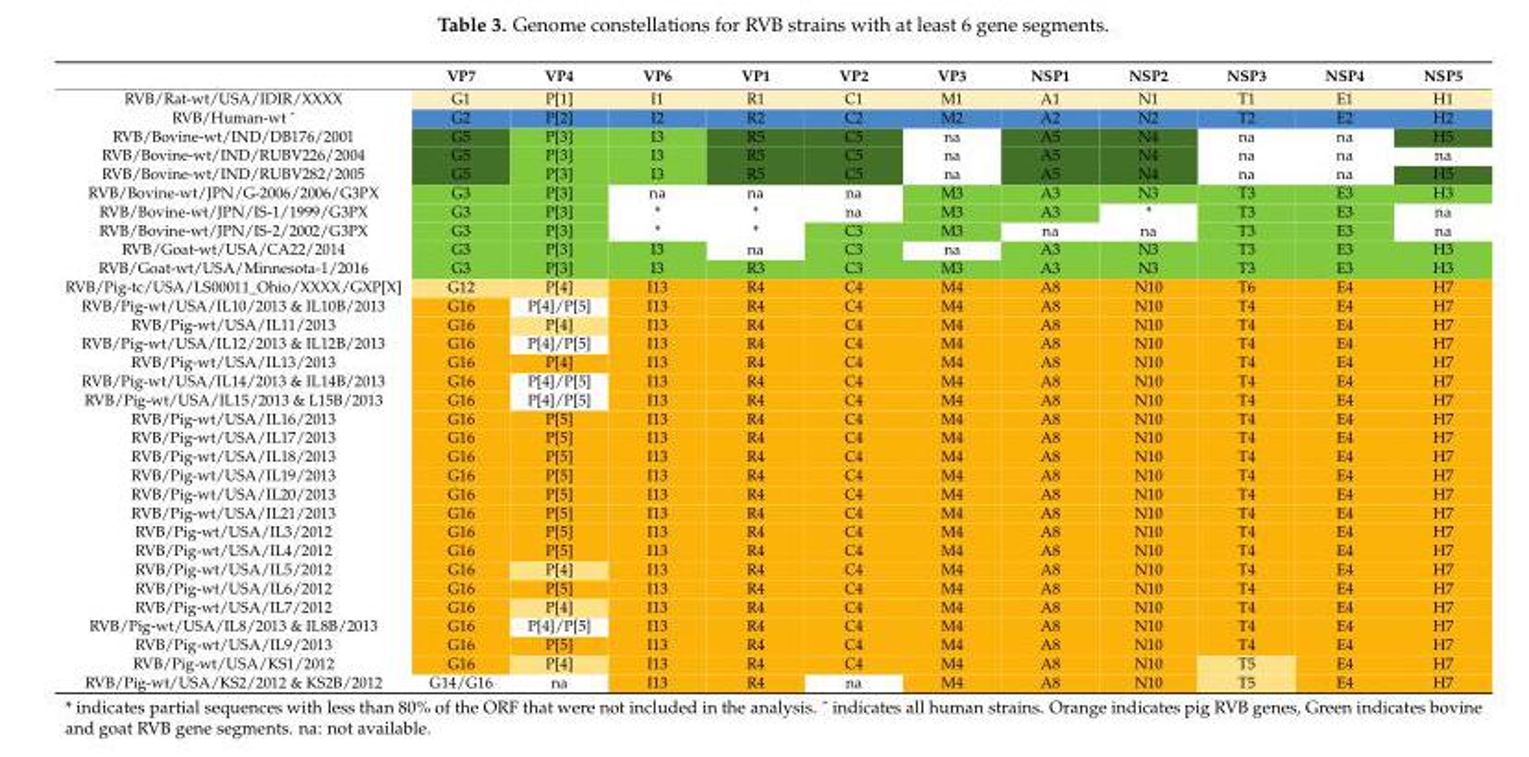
<table><thead><tr><td></td><td>VP7</td><td>VP4</td><td>VP6</td><td>VP1</td><td>VP2</td><td>VP3</td><td>NSP1</td><td>NSP2</td><td>NSP3</td><td>NSP4</td><td>NSP5</td></tr></thead><tbody><tr><td>RVB/Rat-wt/USA/IDIR/XXXX</td><td>G1</td><td>P[1]</td><td>I1</td><td>R1</td><td>C1</td><td>M1</td><td>A1</td><td>N1</td><td>T1</td><td>E1</td><td>H1</td></tr><tr><td>RVB/Human-wt ˆ</td><td>G2</td><td>P[2]</td><td>I2</td><td>R2</td><td>C2</td><td>M2</td><td>A2</td><td>N2</td><td>T2</td><td>E2</td><td>H2</td></tr><tr><td>RVB/Bovine-wt/IND/DB176/2001</td><td>G5</td><td>P[3]</td><td>I3</td><td>R5</td><td>C5</td><td>na</td><td>A5</td><td>N4</td><td>na</td><td>na</td><td>H5</td></tr><tr><td>RVB/Bovine-wt/IND/RUBV226/2004</td><td>G5</td><td>P[3]</td><td>I3</td><td>R5</td><td>C5</td><td>na</td><td>A5</td><td>N4</td><td>na</td><td>na</td><td>na</td></tr><tr><td>RVB/Bovine-wt/IND/RUBV282/2005</td><td>G5</td><td>P[3]</td><td>I3</td><td>R5</td><td>C5</td><td>na</td><td>A5</td><td>N4</td><td>na</td><td>na</td><td>H5</td></tr><tr><td>RVB/Bovine-wt/JPN/G-2006/2006/G3PX</td><td>G3</td><td>P[3]</td><td>na</td><td>na</td><td>na</td><td>M3</td><td>A3</td><td>N3</td><td>T3</td><td>E3</td><td>H3</td></tr><tr><td>RVB/Bovine-wt/JPN/IS-1/1999/G3PX</td><td>G3</td><td>P[3]</td><td>*</td><td>*</td><td>na</td><td>M3</td><td>A3</td><td>*</td><td>T3</td><td>E3</td><td>na</td></tr><tr><td>RVB/Bovine-wt/JPN/IS-2/2002/G3PX</td><td>G3</td><td>P[3]</td><td>*</td><td>*</td><td>C3</td><td>M3</td><td>na</td><td>na</td><td>T3</td><td>E3</td><td>na</td></tr><tr><td>RVB/Goat-wt/USA/CA22/2014</td><td>G3</td><td>P[3]</td><td>I3</td><td>na</td><td>C3</td><td>na</td><td>A3</td><td>N3</td><td>T3</td><td>E3</td><td>H3</td></tr><tr><td>RVB/Goat-wt/USA/Minnesota-1/2016</td><td>G3</td><td>P[3]</td><td>I3</td><td>R3</td><td>C3</td><td>M3</td><td>A3</td><td>N3</td><td>T3</td><td>E3</td><td>H3</td></tr><tr><td>RVB/Pig-tc/USA/LS00011_Ohio/XXXX/GXP[X]</td><td>G12</td><td>P[4]</td><td>I13</td><td>R4</td><td>C4</td><td>M4</td><td>A8</td><td>N10</td><td>T6</td><td>E4</td><td>H7</td></tr><tr><td>RVB/Pig-wt/USA/IL10/2013 &amp; IL10B/2013</td><td>G16</td><td>P[4]/P[5]</td><td>I13</td><td>R4</td><td>C4</td><td>M4</td><td>A8</td><td>N10</td><td>T4</td><td>E4</td><td>H7</td></tr><tr><td>RVB/Pig-wt/USA/IL11/2013</td><td>G16</td><td>P[4]</td><td>I13</td><td>R4</td><td>C4</td><td>M4</td><td>A8</td><td>N10</td><td>T4</td><td>E4</td><td>H7</td></tr><tr><td>RVB/Pig-wt/USA/IL12/2013 &amp; IL12B/2013</td><td>G16</td><td>P[4]/P[5]</td><td>I13</td><td>R4</td><td>C4</td><td>M4</td><td>A8</td><td>N10</td><td>T4</td><td>E4</td><td>H7</td></tr><tr><td>RVB/Pig-wt/USA/IL13/2013</td><td>G16</td><td>P[4]</td><td>I13</td><td>R4</td><td>C4</td><td>M4</td><td>A8</td><td>N10</td><td>T4</td><td>E4</td><td>H7</td></tr><tr><td>RVB/Pig-wt/USA/IL14/2013 &amp; IL14B/2013</td><td>G16</td><td>P[4]/P[5]</td><td>I13</td><td>R4</td><td>C4</td><td>M4</td><td>A8</td><td>N10</td><td>T4</td><td>E4</td><td>H7</td></tr><tr><td>RVB/Pig-wt/USA/IL15/2013 &amp; L15B/2013</td><td>G16</td><td>P[4]/P[5]</td><td>I13</td><td>R4</td><td>C4</td><td>M4</td><td>A8</td><td>N10</td><td>T4</td><td>E4</td><td>H7</td></tr><tr><td>RVB/Pig-wt/USA/IL16/2013</td><td>G16</td><td>P[5]</td><td>I13</td><td>R4</td><td>C4</td><td>M4</td><td>A8</td><td>N10</td><td>T4</td><td>E4</td><td>H7</td></tr><tr><td>RVB/Pig-wt/USA/IL17/2013</td><td>G16</td><td>P[5]</td><td>I13</td><td>R4</td><td>C4</td><td>M4</td><td>A8</td><td>N10</td><td>T4</td><td>E4</td><td>H7</td></tr><tr><td>RVB/Pig-wt/USA/IL18/2013</td><td>G16</td><td>P[5]</td><td>I13</td><td>R4</td><td>C4</td><td>M4</td><td>A8</td><td>N10</td><td>T4</td><td>E4</td><td>H7</td></tr><tr><td>RVB/Pig-wt/USA/IL19/2013</td><td>G16</td><td>P[5]</td><td>I13</td><td>R4</td><td>C4</td><td>M4</td><td>A8</td><td>N10</td><td>T4</td><td>E4</td><td>H7</td></tr><tr><td>RVB/Pig-wt/USA/IL20/2013</td><td>G16</td><td>P[5]</td><td>I13</td><td>R4</td><td>C4</td><td>M4</td><td>A8</td><td>N10</td><td>T4</td><td>E4</td><td>H7</td></tr><tr><td>RVB/Pig-wt/USA/IL21/2013</td><td>G16</td><td>P[5]</td><td>I13</td><td>R4</td><td>C4</td><td>M4</td><td>A8</td><td>N10</td><td>T4</td><td>E4</td><td>H7</td></tr><tr><td>RVB/Pig-wt/USA/IL3/2012</td><td>G16</td><td>P[5]</td><td>I13</td><td>R4</td><td>C4</td><td>M4</td><td>A8</td><td>N10</td><td>T4</td><td>E4</td><td>H7</td></tr><tr><td>RVB/Pig-wt/USA/IL4/2012</td><td>G16</td><td>P[5]</td><td>I13</td><td>R4</td><td>C4</td><td>M4</td><td>A8</td><td>N10</td><td>T4</td><td>E4</td><td>H7</td></tr><tr><td>RVB/Pig-wt/USA/IL5/2012</td><td>G16</td><td>P[4]</td><td>I13</td><td>R4</td><td>C4</td><td>M4</td><td>A8</td><td>N10</td><td>T4</td><td>E4</td><td>H7</td></tr><tr><td>RVB/Pig-wt/USA/IL6/2012</td><td>G16</td><td>P[5]</td><td>I13</td><td>R4</td><td>C4</td><td>M4</td><td>A8</td><td>N10</td><td>T4</td><td>E4</td><td>H7</td></tr><tr><td>RVB/Pig-wt/USA/IL7/2012</td><td>G16</td><td>P[4]</td><td>I13</td><td>R4</td><td>C4</td><td>M4</td><td>A8</td><td>N10</td><td>T4</td><td>E4</td><td>H7</td></tr><tr><td>RVB/Pig-wt/USA/IL8/2013 &amp; IL8B/2013</td><td>G16</td><td>P[4]/P[5]</td><td>I13</td><td>R4</td><td>C4</td><td>M4</td><td>A8</td><td>N10</td><td>T4</td><td>E4</td><td>H7</td></tr><tr><td>RVB/Pig-wt/USA/IL9/2013</td><td>G16</td><td>P[5]</td><td>I13</td><td>R4</td><td>C4</td><td>M4</td><td>A8</td><td>N10</td><td>T4</td><td>E4</td><td>H7</td></tr><tr><td>RVB/Pig-wt/USA/KS1/2012</td><td>G16</td><td>P[4]</td><td>I13</td><td>R4</td><td>C4</td><td>M4</td><td>A8</td><td>N10</td><td>T5</td><td>E4</td><td>H7</td></tr><tr><td>RVB/Pig-wt/USA/KS2/2012 &amp; KS2B/2012</td><td>G14/G16</td><td>na</td><td>I13</td><td>R4</td><td>na</td><td>M4</td><td>A8</td><td>N10</td><td>T5</td><td>E4</td><td>H7</td></tr></tbody></table>